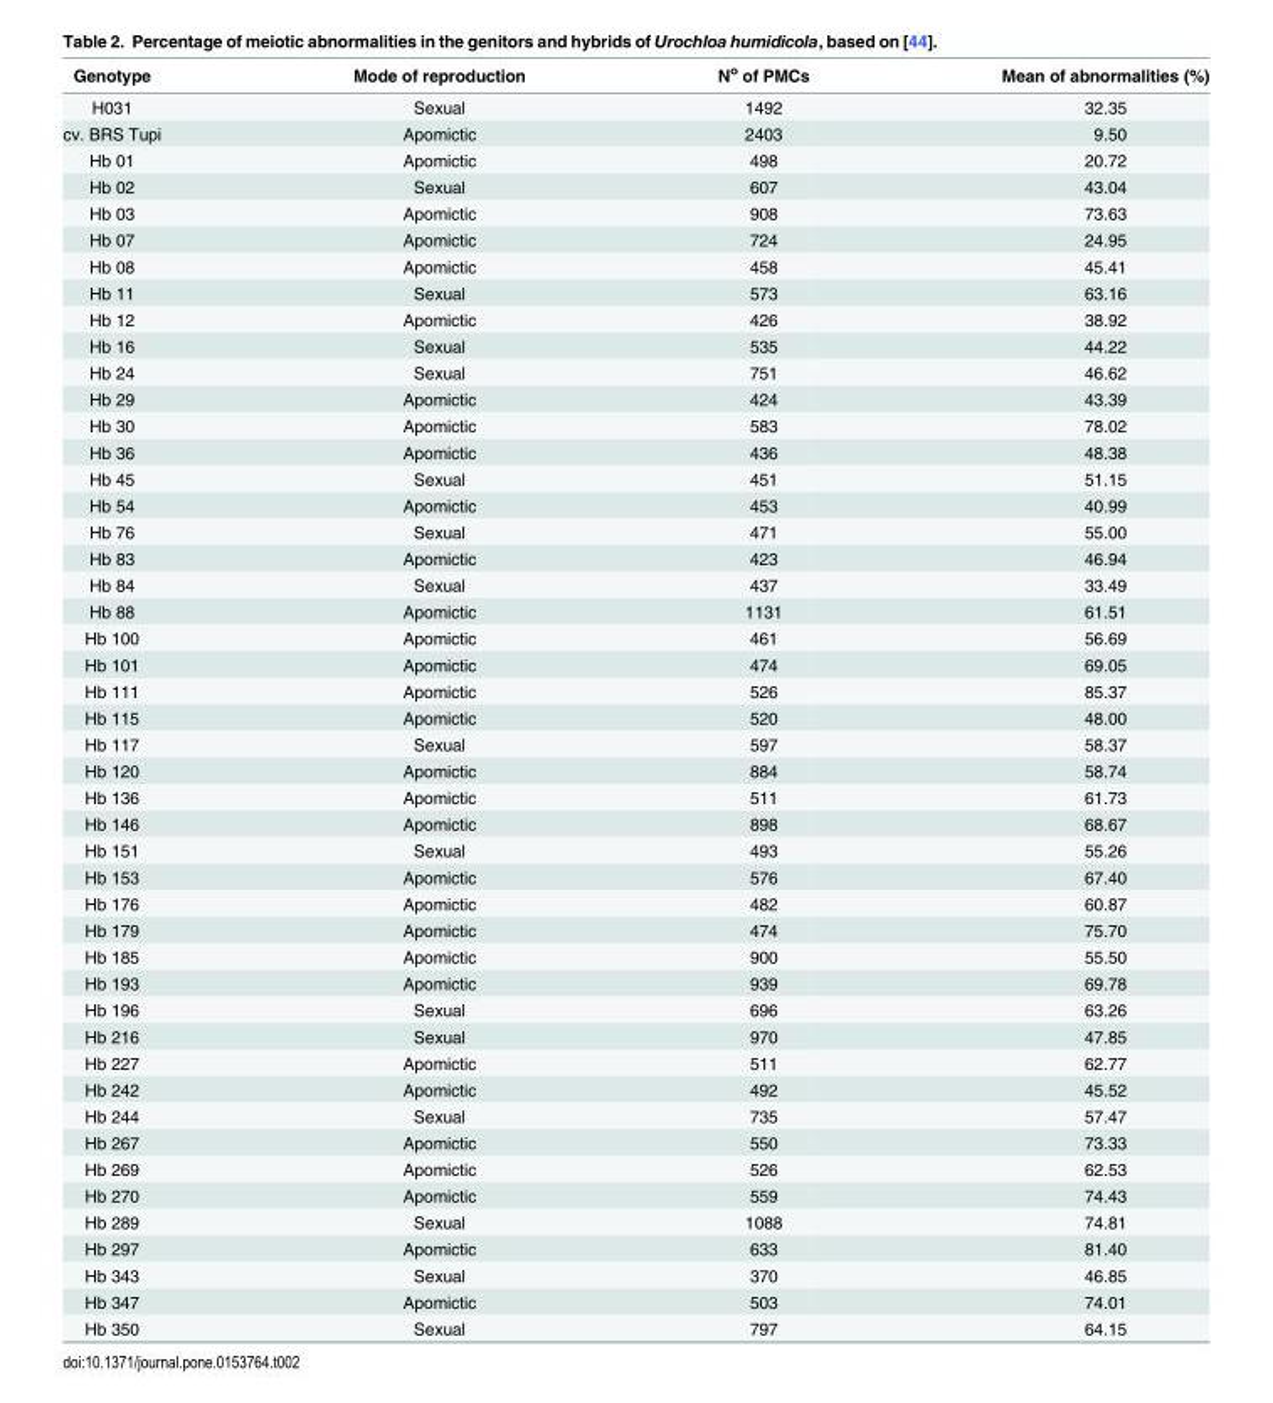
<table><thead><tr><td>Genotype</td><td>Mode of reproduction</td><td>N<sup>o</sup> of PMCs</td><td>Mean of abnormalities (%)</td></tr></thead><tbody><tr><td>H031</td><td>Sexual</td><td>1492</td><td>32.35</td></tr><tr><td>cv. BRS Tupi</td><td>Apomictic</td><td>2403</td><td>9.50</td></tr><tr><td>Hb 01</td><td>Apomictic</td><td>498</td><td>20.72</td></tr><tr><td>Hb 02</td><td>Sexual</td><td>607</td><td>43.04</td></tr><tr><td>Hb 03</td><td>Apomictic</td><td>908</td><td>73.63</td></tr><tr><td>Hb 07</td><td>Apomictic</td><td>724</td><td>24.95</td></tr><tr><td>Hb 08</td><td>Apomictic</td><td>458</td><td>45.41</td></tr><tr><td>Hb 11</td><td>Sexual</td><td>573</td><td>63.16</td></tr><tr><td>Hb 12</td><td>Apomictic</td><td>426</td><td>38.92</td></tr><tr><td>Hb 16</td><td>Sexual</td><td>535</td><td>44.22</td></tr><tr><td>Hb 24</td><td>Sexual</td><td>751</td><td>46.62</td></tr><tr><td>Hb 29</td><td>Apomictic</td><td>424</td><td>43.39</td></tr><tr><td>Hb 30</td><td>Apomictic</td><td>583</td><td>78.02</td></tr><tr><td>Hb 36</td><td>Apomictic</td><td>436</td><td>48.38</td></tr><tr><td>Hb 45</td><td>Sexual</td><td>451</td><td>51.15</td></tr><tr><td>Hb 54</td><td>Apomictic</td><td>453</td><td>40.99</td></tr><tr><td>Hb 76</td><td>Sexual</td><td>471</td><td>55.00</td></tr><tr><td>Hb 83</td><td>Apomictic</td><td>423</td><td>46.94</td></tr><tr><td>Hb 84</td><td>Sexual</td><td>437</td><td>33.49</td></tr><tr><td>Hb 88</td><td>Apomictic</td><td>1131</td><td>61.51</td></tr><tr><td>Hb 100</td><td>Apomictic</td><td>461</td><td>56.69</td></tr><tr><td>Hb 101</td><td>Apomictic</td><td>474</td><td>69.05</td></tr><tr><td>Hb 111</td><td>Apomictic</td><td>526</td><td>85.37</td></tr><tr><td>Hb 115</td><td>Apomictic</td><td>520</td><td>48.00</td></tr><tr><td>Hb 117</td><td>Sexual</td><td>597</td><td>58.37</td></tr><tr><td>Hb 120</td><td>Apomictic</td><td>884</td><td>58.74</td></tr><tr><td>Hb 136</td><td>Apomictic</td><td>511</td><td>61.73</td></tr><tr><td>Hb 146</td><td>Apomictic</td><td>898</td><td>68.67</td></tr><tr><td>Hb 151</td><td>Sexual</td><td>493</td><td>55.26</td></tr><tr><td>Hb 153</td><td>Apomictic</td><td>576</td><td>67.40</td></tr><tr><td>Hb 176</td><td>Apomictic</td><td>482</td><td>60.87</td></tr><tr><td>Hb 179</td><td>Apomictic</td><td>474</td><td>75.70</td></tr><tr><td>Hb 185</td><td>Apomictic</td><td>900</td><td>55.50</td></tr><tr><td>Hb 193</td><td>Apomictic</td><td>939</td><td>69.78</td></tr><tr><td>Hb 196</td><td>Sexual</td><td>696</td><td>63.26</td></tr><tr><td>Hb 216</td><td>Sexual</td><td>970</td><td>47.85</td></tr><tr><td>Hb 227</td><td>Apomictic</td><td>511</td><td>62.77</td></tr><tr><td>Hb 242</td><td>Apomictic</td><td>492</td><td>45.52</td></tr><tr><td>Hb 244</td><td>Sexual</td><td>735</td><td>57.47</td></tr><tr><td>Hb 267</td><td>Apomictic</td><td>550</td><td>73.33</td></tr><tr><td>Hb 269</td><td>Apomictic</td><td>526</td><td>62.53</td></tr><tr><td>Hb 270</td><td>Apomictic</td><td>559</td><td>74.43</td></tr><tr><td>Hb 289</td><td>Sexual</td><td>1088</td><td>74.81</td></tr><tr><td>Hb 297</td><td>Apomictic</td><td>633</td><td>81.40</td></tr><tr><td>Hb 343</td><td>Sexual</td><td>370</td><td>46.85</td></tr><tr><td>Hb 347</td><td>Apomictic</td><td>503</td><td>74.01</td></tr><tr><td>Hb 350</td><td>Sexual</td><td>797</td><td>64.15</td></tr></tbody></table>